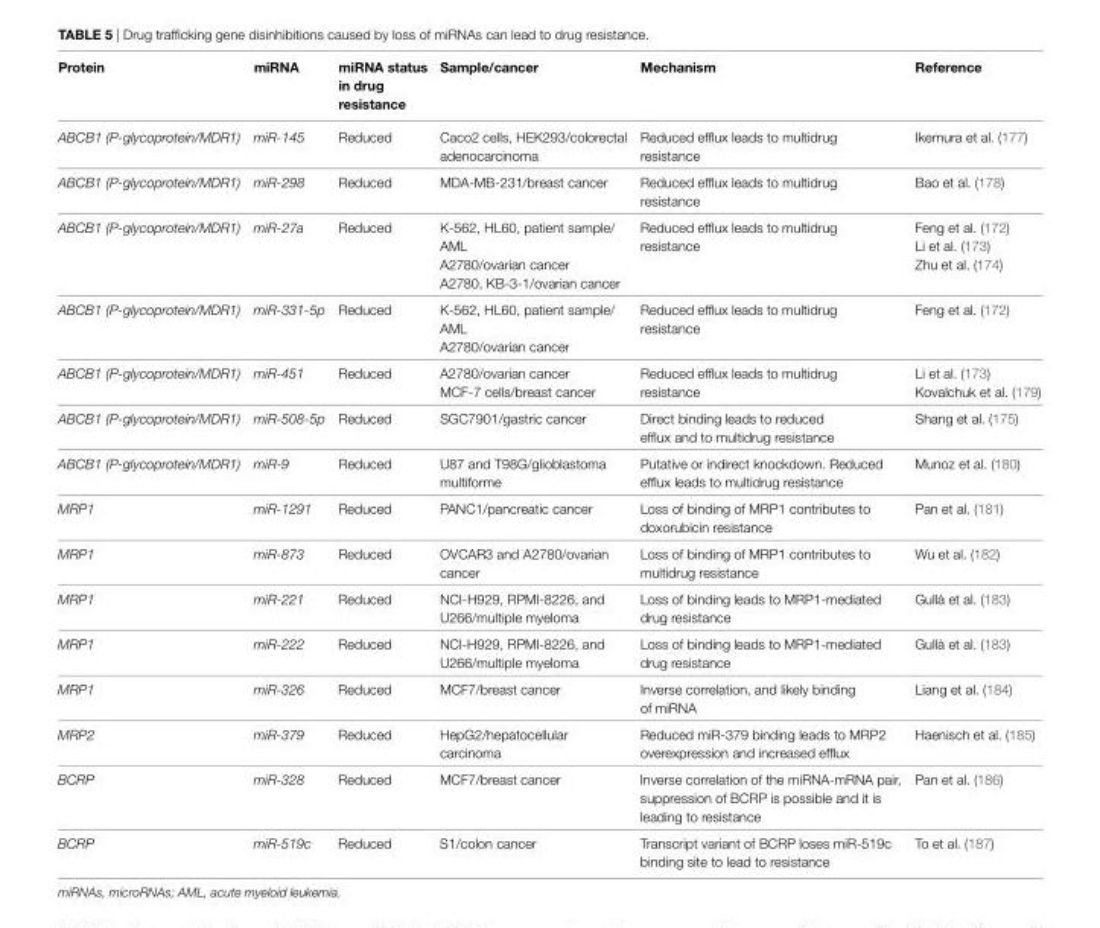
<table><thead><tr><td>Protein</td><td>miRNA</td><td>miRNA status in drug resistance</td><td>Sample/cancer</td><td>Mechanism</td><td>Reference</td></tr></thead><tbody><tr><td>ABCB1 (P-glycoprotein/MDR1)</td><td>miR-145</td><td>Reduced</td><td>Caco2 cells, HEK293/colorectal adenocarcinoma</td><td>Reduced efflux leads to multidrug resistance</td><td>Ikemura et al. (177)</td></tr><tr><td>ABCB1 (P-glycoprotein/MDR1)</td><td>miR-298</td><td>Reduced</td><td>MDA-MB-231/breast cancer</td><td>Reduced efflux leads to multidrug resistance</td><td>Bao et al. (178)</td></tr><tr><td>ABCB1 (P-glycoprotein/MDR1)</td><td>miR-27a</td><td>Reduced</td><td>K-562, HL60, patient sample/ AML A2780/ovarian cancer A2780, KB-3-1/ovarian cancer</td><td>Reduced efflux leads to multidrug resistance</td><td>Feng et al. (172) Li et al. (173) Zhu et al. (174)</td></tr><tr><td>ABCB1 (P-glycoprotein/MDR1)</td><td>miR-331-5p</td><td>Reduced</td><td>K-562, HL60, patient sample/ AML A2780/ovarian cancer</td><td>Reduced efflux leads to multidrug resistance</td><td>Feng et al. (172)</td></tr><tr><td>ABCB1 (P-glycoprotein/MDR1)</td><td>miR-451</td><td>Reduced</td><td>A2780/ovarian cancer MCF-7 cells/breast cancer</td><td>Reduced efflux leads to multidrug resistance</td><td>Li et al. (173) Kovalchuk et al. (179)</td></tr><tr><td>ABCB1 (P-glycoprotein/MDR1)</td><td>miR-508-5p</td><td>Reduced</td><td>SGC7901/gastric cancer</td><td>Direct binding leads to reduced efflux and to multidrug resistance</td><td>Shang et al. (175)</td></tr><tr><td>ABCB1 (P-glycoprotein/MDR1)</td><td>miR-9</td><td>Reduced</td><td>U87 and T98G/glioblastoma multiforme</td><td>Putative or indirect knockdown. Reduced efflux leads to multidrug resistance</td><td>Munoz et al. (180)</td></tr><tr><td>MRP1</td><td>miR-1291</td><td>Reduced</td><td>PANC1/pancreatic cancer</td><td>Loss of binding of MRP1 contributes to doxorubicin resistance</td><td>Pan et al. (181)</td></tr><tr><td>MRP1</td><td>miR-873</td><td>Reduced</td><td>OVCAR3 and A2780/ovarian cancer</td><td>Loss of binding of MRP1 contributes to multidrug resistance</td><td>Wu et al. (182)</td></tr><tr><td>MRP1</td><td>miR-221</td><td>Reduced</td><td>NCI-H929, RPMI-8226, and U266/multiple myeloma</td><td>Loss of binding leads to MRP1-mediated drug resistance</td><td>Gullà et al. (183)</td></tr><tr><td>MRP1</td><td>miR-222</td><td>Reduced</td><td>NCI-H929, RPMI-8226, and U266/multiple myeloma</td><td>Loss of binding leads to MRP1-mediated drug resistance</td><td>Gullà et al. (183)</td></tr><tr><td>MRP1</td><td>miR-326</td><td>Reduced</td><td>MCF7/breast cancer</td><td>Inverse correlation, and likely binding of miRNA</td><td>Liang et al. (184)</td></tr><tr><td>MRP2</td><td>miR-379</td><td>Reduced</td><td>HepG2/hepatocellular carcinoma</td><td>Reduced miR-379 binding leads to MRP2 overexpression and increased efflux</td><td>Haenisch et al. (185)</td></tr><tr><td>BCRP</td><td>miR-328</td><td>Reduced</td><td>MCF7/breast cancer</td><td>Inverse correlation of the miRNA-mRNA pair, suppression of BCRP is possible and it is leading to resistance</td><td>Pan et al. (186)</td></tr><tr><td>BCRP</td><td>miR-519c</td><td>Reduced</td><td>S1/colon cancer</td><td>Transcript variant of BCRP loses miR-519c binding site to lead to resistance</td><td>To et al. (187)</td></tr></tbody></table>